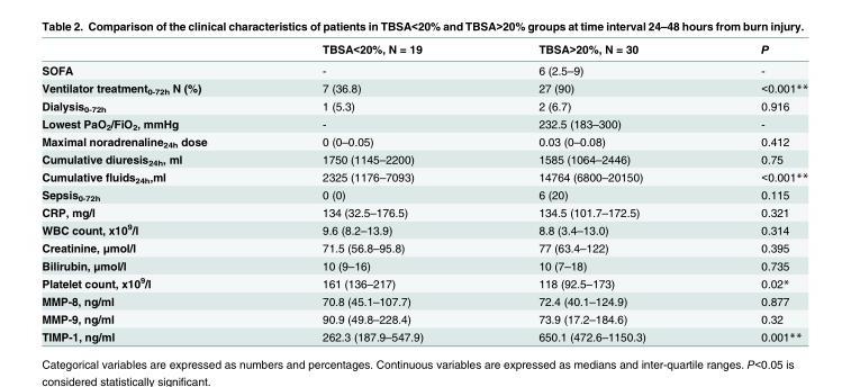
<table><thead><tr><td></td><td>TBSA&lt;20%, N = 19</td><td>TBSA&gt;20%, N = 30</td><td>P</td></tr></thead><tbody><tr><td>SOFA</td><td>-</td><td>6 (2.5–9)</td><td>-</td></tr><tr><td>Ventilator treatment<sub>0-72h</sub> N (%)</td><td>7 (36.8)</td><td>27 (90)</td><td>&lt;0.001**</td></tr><tr><td>Dialysis<sub>0-72h</sub></td><td>1 (5.3)</td><td>2 (6.7)</td><td>0.916</td></tr><tr><td>Lowest PaO<sub>2</sub>/FiO<sub>2</sub>, mmHg</td><td>-</td><td>232.5 (183–300)</td><td>-</td></tr><tr><td>Maximal noradrenaline<sub>24h</sub> dose</td><td>0 (0–0.05)</td><td>0.03 (0–0.08)</td><td>0.412</td></tr><tr><td>Cumulative diuresis<sub>24h</sub>, ml</td><td>1750 (1145–2200)</td><td>1585 (1064–2446)</td><td>0.75</td></tr><tr><td>Cumulative fluids<sub>24h</sub>,ml</td><td>2325 (1176–7093)</td><td>14764 (6800–20150)</td><td>&lt;0.001**</td></tr><tr><td>Sepsis<sub>0-72h</sub></td><td>0 (0)</td><td>6 (20)</td><td>0.115</td></tr><tr><td>CRP, mg/l</td><td>134 (32.5–176.5)</td><td>134.5 (101.7–172.5)</td><td>0.321</td></tr><tr><td>WBC count, x10<sup>9</sup>/l</td><td>9.6 (8.2–13.9)</td><td>8.8 (3.4–13.0)</td><td>0.314</td></tr><tr><td>Creatinine, μmol/l</td><td>71.5 (56.8–95.8)</td><td>77 (63.4–122)</td><td>0.395</td></tr><tr><td>Bilirubin, μmol/l</td><td>10 (9–16)</td><td>10 (7–18)</td><td>0.735</td></tr><tr><td>Platelet count, x10<sup>9</sup>/l</td><td>161 (136–217)</td><td>118 (92.5–173)</td><td>0.02*</td></tr><tr><td>MMP-8, ng/ml</td><td>70.8 (45.1–107.7)</td><td>72.4 (40.1–124.9)</td><td>0.877</td></tr><tr><td>MMP-9, ng/ml</td><td>90.9 (49.8–228.4)</td><td>73.9 (17.2–184.6)</td><td>0.32</td></tr><tr><td>TIMP-1, ng/ml</td><td>262.3 (187.9–547.9)</td><td>650.1 (472.6–1150.3)</td><td>0.001**</td></tr></tbody></table>